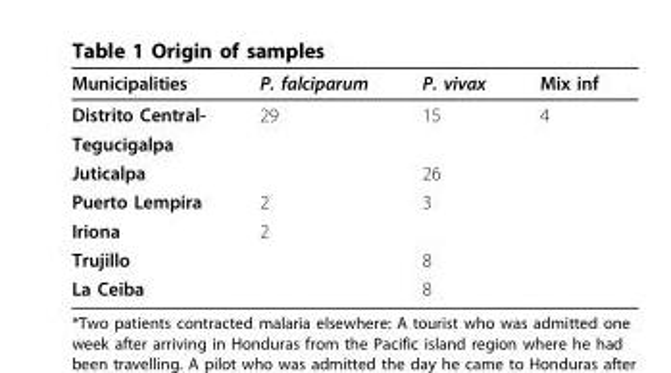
<table><thead><tr><td>Municipalities</td><td>P. falciparum</td><td>P. vivax</td><td>Mix inf</td></tr></thead><tbody><tr><td>Distrito Central-</td><td>29</td><td>15</td><td>4</td></tr><tr><td colspan="4">Tegucigalpa</td></tr><tr><td>Juticalpa</td><td></td><td>26</td><td></td></tr><tr><td>Puerto Lempira</td><td>2</td><td>3</td><td></td></tr><tr><td>Iriona</td><td>2</td><td></td><td></td></tr><tr><td>Trujillo</td><td></td><td>8</td><td></td></tr><tr><td>La Ceiba</td><td></td><td>8</td><td></td></tr></tbody></table>